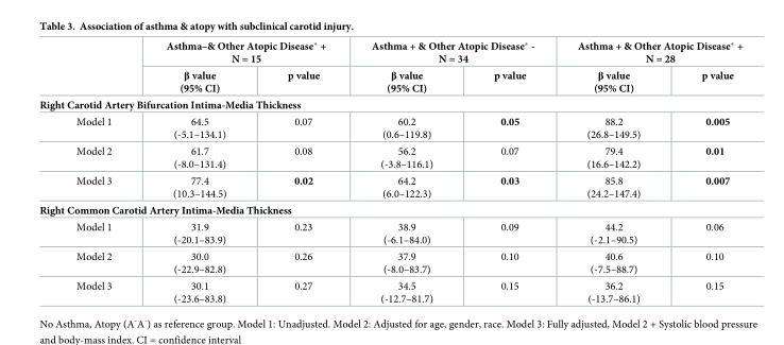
<table><thead><tr><td rowspan="2"></td><td colspan="2">Asthma–&amp; Other Atopic Disease* + N = 15</td><td colspan="2">Asthma + &amp; Other Atopic Disease* - N = 34</td><td colspan="2">Asthma + &amp; Other Atopic Disease* + N = 28</td></tr><tr><td>β value (95% CI)</td><td>p value</td><td>β value (95% CI)</td><td>p value</td><td>β value (95% CI)</td><td>p value</td></tr></thead><tbody><tr><td colspan="7">Right Carotid Artery Bifurcation Intima-Media Thickness</td></tr><tr><td>Model 1</td><td>64.5 (-5.1–134.1)</td><td>0.07</td><td>60.2 (0.6–119.8)</td><td>0.05</td><td>88.2 (26.8–149.5)</td><td>0.005</td></tr><tr><td>Model 2</td><td>61.7 (-8.0–131.4)</td><td>0.08</td><td>56.2 (-3.8–116.1)</td><td>0.07</td><td>79.4 (16.6–142.2)</td><td>0.01</td></tr><tr><td>Model 3</td><td>77.4 (10.3–144.5)</td><td>0.02</td><td>64.2 (6.0–122.3)</td><td>0.03</td><td>85.8 (24.2–147.4)</td><td>0.007</td></tr><tr><td colspan="7">Right Common Carotid Artery Intima-Media Thickness</td></tr><tr><td>Model 1</td><td>31.9 (-20.1–83.9)</td><td>0.23</td><td>38.9 (-6.1–84.0)</td><td>0.09</td><td>44.2 (-2.1–90.5)</td><td>0.06</td></tr><tr><td>Model 2</td><td>30.0 (-22.9–82.8)</td><td>0.26</td><td>37.9 (-8.0–83.7)</td><td>0.10</td><td>40.6 (-7.5–88.7)</td><td>0.10</td></tr><tr><td>Model 3</td><td>30.1 (-23.6–83.8)</td><td>0.27</td><td>34.5 (-12.7–81.7)</td><td>0.15</td><td>36.2 (-13.7–86.1)</td><td>0.15</td></tr></tbody></table>